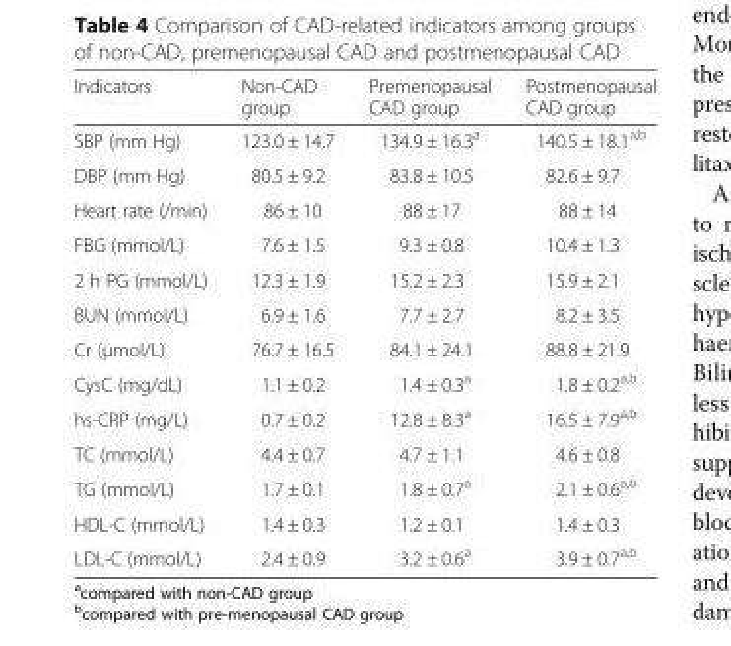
<table><thead><tr><td>Indicators</td><td>Non-CAD group</td><td>Premenopausal CAD group</td><td>Postmenopausal CAD group</td></tr></thead><tbody><tr><td>SBP (mm Hg)</td><td>123.0 ± 14.7</td><td>134.9 ± 16.3<sup>a</sup></td><td>140.5 ± 18.1<sup>a,b</sup></td></tr><tr><td>DBP (mm Hg)</td><td>80.5 ± 9.2</td><td>83.8 ± 10.5</td><td>82.6 ± 9.7</td></tr><tr><td>Heart rate (/min)</td><td>86 ± 10</td><td>88 ± 17</td><td>88 ± 14</td></tr><tr><td>FBG (mmol/L)</td><td>7.6 ± 1.5</td><td>9.3 ± 0.8</td><td>10.4 ± 1.3</td></tr><tr><td>2 h PG (mmol/L)</td><td>12.3 ± 1.9</td><td>15.2 ± 2.3</td><td>15.9 ± 2.1</td></tr><tr><td>BUN (mmol/L)</td><td>6.9 ± 1.6</td><td>7.7 ± 2.7</td><td>8.2 ± 3.5</td></tr><tr><td>Cr (μmol/L)</td><td>76.7 ± 16.5</td><td>84.1 ± 24.1</td><td>88.8 ± 21.9</td></tr><tr><td>CysC (mg/dL)</td><td>1.1 ± 0.2</td><td>1.4 ± 0.3<sup>a</sup></td><td>1.8 ± 0.2<sup>a,b</sup></td></tr><tr><td>hs-CRP (mg/L)</td><td>0.7 ± 0.2</td><td>12.8 ± 8.3<sup>a</sup></td><td>16.5 ± 7.9<sup>a,b</sup></td></tr><tr><td>TC (mmol/L)</td><td>4.4 ± 0.7</td><td>4.7 ± 1.1</td><td>4.6 ± 0.8</td></tr><tr><td>TG (mmol/L)</td><td>1.7 ± 0.1</td><td>1.8 ± 0.7<sup>a</sup></td><td>2.1 ± 0.6<sup>a,b</sup></td></tr><tr><td>HDL-C (mmol/L)</td><td>1.4 ± 0.3</td><td>1.2 ± 0.1</td><td>1.4 ± 0.3</td></tr><tr><td>LDL-C (mmol/L)</td><td>2.4 ± 0.9</td><td>3.2 ± 0.6<sup>a</sup></td><td>3.9 ± 0.7<sup>a,b</sup></td></tr></tbody></table>